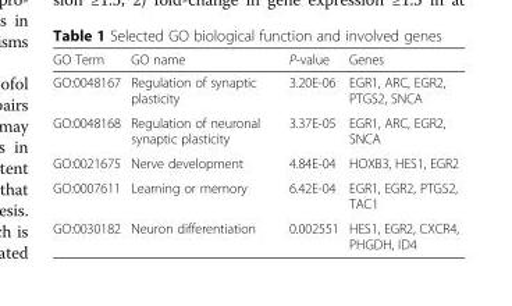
<table><thead><tr><td>GO Term</td><td>GO name</td><td>P-value</td><td>Genes</td></tr></thead><tbody><tr><td>GO:0048167</td><td>Regulation of synaptic plasticity</td><td>3.20E-06</td><td>EGR1, ARC, EGR2, PTGS2, SNCA</td></tr><tr><td>GO:0048168</td><td>Regulation of neuronal synaptic plasticity</td><td>3.37E-05</td><td>EGR1, ARC, EGR2, SNCA</td></tr><tr><td>GO:0021675</td><td>Nerve development</td><td>4.84E-04</td><td>HOXB3, HES1, EGR2</td></tr><tr><td>GO:0007611</td><td>Learning or memory</td><td>6.42E-04</td><td>EGR1, EGR2, PTGS2, TAC1</td></tr><tr><td>GO:0030182</td><td>Neuron differentiation</td><td>0.002551</td><td>HES1, EGR2, CXCR4, PHGDH, ID4</td></tr></tbody></table>